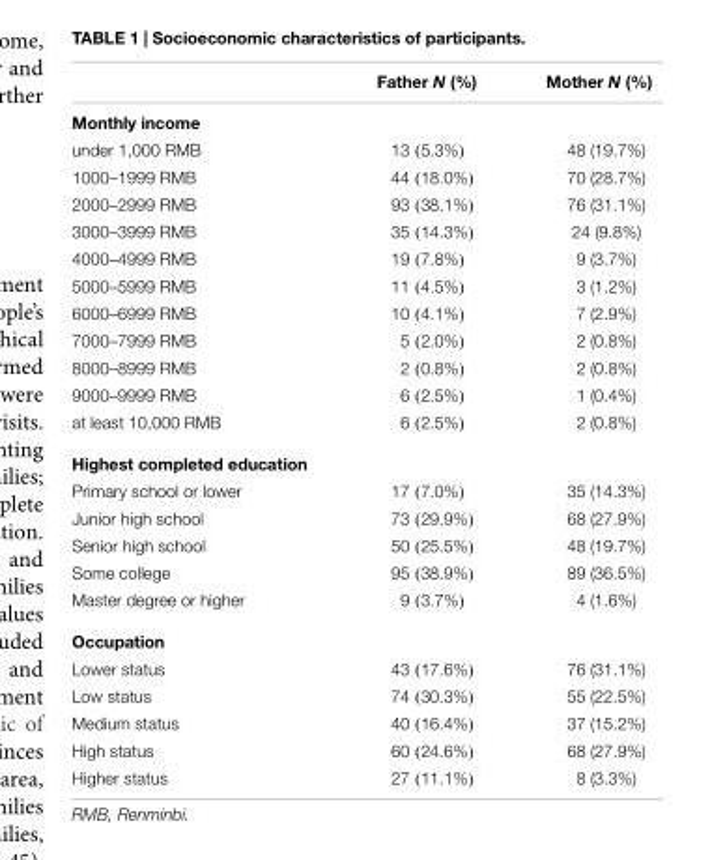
<table><thead><tr><td></td><td>Father N (%)</td><td>Mother N (%)</td></tr></thead><tbody><tr><td colspan="3">Monthly income</td></tr><tr><td>under 1,000 RMB</td><td>13 (5.3%)</td><td>48 (19.7%)</td></tr><tr><td>1000–1999 RMB</td><td>44 (18.0%)</td><td>70 (28.7%)</td></tr><tr><td>2000–2999 RMB</td><td>93 (38.1%)</td><td>76 (31.1%)</td></tr><tr><td>3000–3999 RMB</td><td>35 (14.3%)</td><td>24 (9.8%)</td></tr><tr><td>4000–4999 RMB</td><td>19 (7.8%)</td><td>9 (3.7%)</td></tr><tr><td>5000–5999 RMB</td><td>11 (4.5%)</td><td>3 (1.2%)</td></tr><tr><td>6000–6999 RMB</td><td>10 (4.1%)</td><td>7 (2.9%)</td></tr><tr><td>7000–7999 RMB</td><td>5 (2.0%)</td><td>2 (0.8%)</td></tr><tr><td>8000–8999 RMB</td><td>2 (0.8%)</td><td>2 (0.8%)</td></tr><tr><td>9000–9999 RMB</td><td>6 (2.5%)</td><td>1 (0.4%)</td></tr><tr><td>at least 10,000 RMB</td><td>6 (2.5%)</td><td>2 (0.8%)</td></tr><tr><td colspan="3">Highest completed education</td></tr><tr><td>Primary school or lower</td><td>17 (7.0%)</td><td>35 (14.3%)</td></tr><tr><td>Junior high school</td><td>73 (29.9%)</td><td>68 (27.9%)</td></tr><tr><td>Senior high school</td><td>50 (25.5%)</td><td>48 (19.7%)</td></tr><tr><td>Some college</td><td>95 (38.9%)</td><td>89 (36.5%)</td></tr><tr><td>Master degree or higher</td><td>9 (3.7%)</td><td>4 (1.6%)</td></tr><tr><td colspan="3">Occupation</td></tr><tr><td>Lower status</td><td>43 (17.6%)</td><td>76 (31.1%)</td></tr><tr><td>Low status</td><td>74 (30.3%)</td><td>55 (22.5%)</td></tr><tr><td>Medium status</td><td>40 (16.4%)</td><td>37 (15.2%)</td></tr><tr><td>High status</td><td>60 (24.6%)</td><td>68 (27.9%)</td></tr><tr><td>Higher status</td><td>27 (11.1%)</td><td>8 (3.3%)</td></tr></tbody></table>